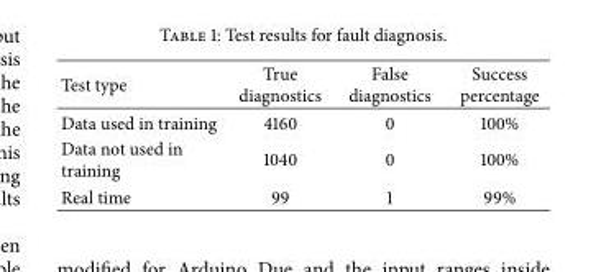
<table><thead><tr><td>Test type</td><td>True diagnostics</td><td>False diagnostics</td><td>Success percentage</td></tr></thead><tbody><tr><td>Data used in training</td><td>4160</td><td>0</td><td>100%</td></tr><tr><td>Data not used in training</td><td>1040</td><td>0</td><td>100%</td></tr><tr><td>Real time</td><td>99</td><td>1</td><td>99%</td></tr></tbody></table>